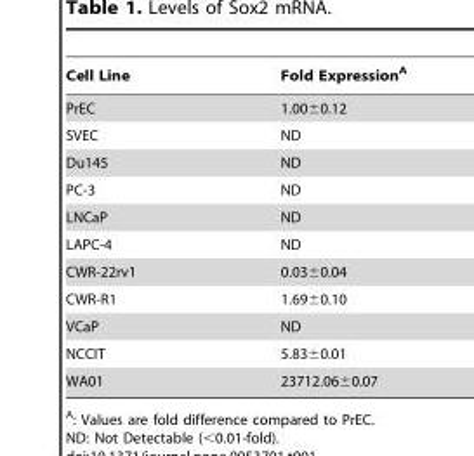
<table><thead><tr><td>Cell Line</td><td>Fold Expression<sup>A</sup></td></tr></thead><tbody><tr><td>PrEC</td><td>1.00±0.12</td></tr><tr><td>SVEC</td><td>ND</td></tr><tr><td>Du145</td><td>ND</td></tr><tr><td>PC-3</td><td>ND</td></tr><tr><td>LNCaP</td><td>ND</td></tr><tr><td>LAPC-4</td><td>ND</td></tr><tr><td>CWR-22rv1</td><td>0.03±0.04</td></tr><tr><td>CWR-R1</td><td>1.69±0.10</td></tr><tr><td>VCaP</td><td>ND</td></tr><tr><td>NCCIT</td><td>5.83±0.01</td></tr><tr><td>WA01</td><td>23712.06±0.07</td></tr></tbody></table>